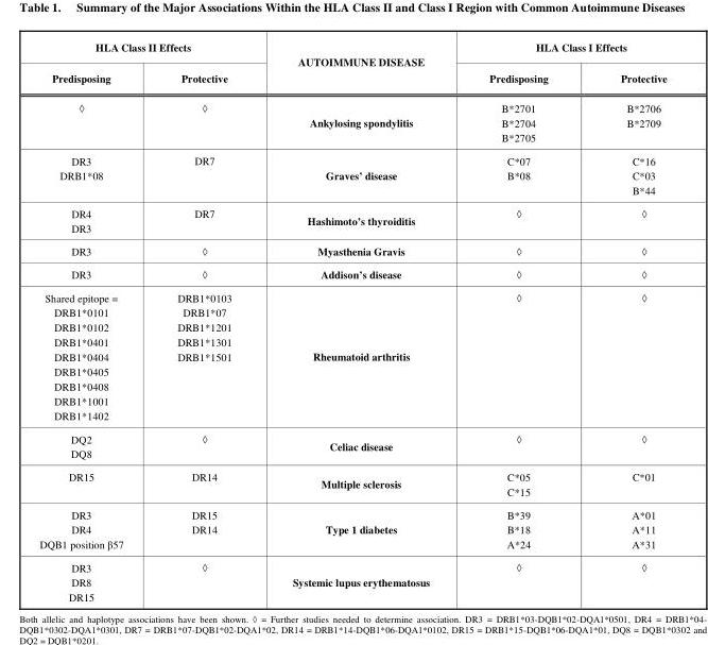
<table><thead><tr><td colspan="2">HLA Class II Effects</td><td rowspan="2">AUTOIMMUNE DISEASE</td><td colspan="2">HLA Class I Effects</td></tr><tr><td>Predisposing</td><td>Protective</td><td>Predisposing</td><td>Protective</td></tr></thead><tbody><tr><td>◊</td><td>◊</td><td>Ankylosing spondylitis</td><td>B*2701 B*2704 B*2705</td><td>B*2706 B*2709</td></tr><tr><td>DR3 DRB1*08</td><td>DR7</td><td>Graves’ disease</td><td>C*07 B*08</td><td>C*16 C*03 B*44</td></tr><tr><td>DR4 DR3</td><td>DR7</td><td>Hashimoto’s thyroiditis</td><td>◊</td><td>◊</td></tr><tr><td>DR3</td><td>◊</td><td>Myasthenia Gravis</td><td>◊</td><td>◊</td></tr><tr><td>DR3</td><td>◊</td><td>Addison’s disease</td><td>◊</td><td>◊</td></tr><tr><td>Shared epitope = DRB1*0101 DRB1*0102 DRB1*0401 DRB1*0404 DRB1*0405 DRB1*0408 DRB1*1001 DRB1*1402</td><td>DRB1*0103 DRB1*07 DRB1*1201 DRB1*1301 DRB1*1501</td><td>Rheumatoid arthritis</td><td>◊</td><td>◊</td></tr><tr><td>DQ2 DQ8</td><td>◊</td><td>Celiac disease</td><td>◊</td><td>◊</td></tr><tr><td>DR15</td><td>DR14</td><td>Multiple sclerosis</td><td>C*05 C*15</td><td>C*01</td></tr><tr><td>DR3 DR4 DQB1 position β57</td><td>DR15 DR14</td><td>Type 1 diabetes</td><td>B*39 B*18 A*24</td><td>A*01 A*11 A*31</td></tr><tr><td>DR3 DR8 DR15</td><td>◊</td><td>Systemic lupus erythematosus</td><td>◊</td><td>◊</td></tr></tbody></table>